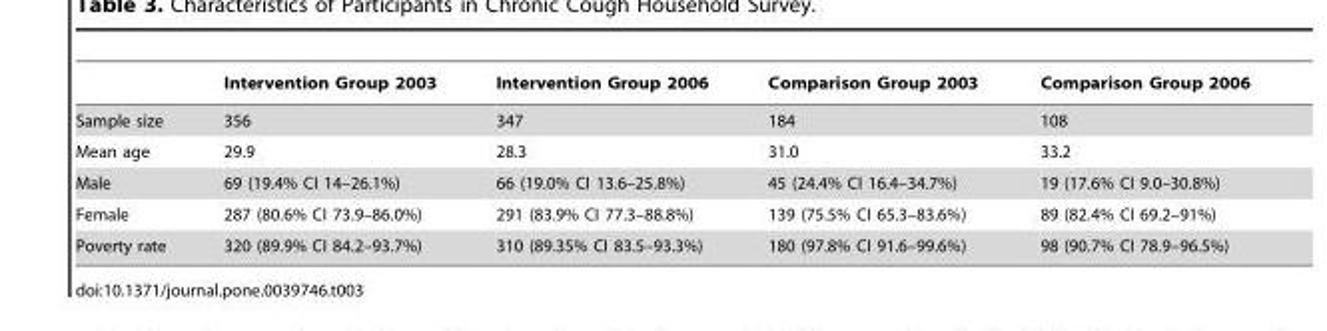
<table><thead><tr><td></td><td>Intervention Group 2003</td><td>Intervention Group 2006</td><td>Comparison Group 2003</td><td>Comparison Group 2006</td></tr></thead><tbody><tr><td>Sample size</td><td>356</td><td>347</td><td>184</td><td>108</td></tr><tr><td>Mean age</td><td>29.9</td><td>28.3</td><td>31.0</td><td>33.2</td></tr><tr><td>Male</td><td>69 (19.4% CI 14–26.1%)</td><td>66 (19.0% CI 13.6–25.8%)</td><td>45 (24.4% CI 16.4–34.7%)</td><td>19 (17.6% CI 9.0–30.8%)</td></tr><tr><td>Female</td><td>287 (80.6% CI 73.9–86.0%)</td><td>291 (83.9% CI 77.3–88.8%)</td><td>139 (75.5% CI 65.3–83.6%)</td><td>89 (82.4% CI 69.2–91%)</td></tr><tr><td>Poverty rate</td><td>320 (89.9% CI 84.2–93.7%)</td><td>310 (89.35% CI 83.5–93.3%)</td><td>180 (97.8% CI 91.6–99.6%)</td><td>98 (90.7% CI 78.9–96.5%)</td></tr></tbody></table>